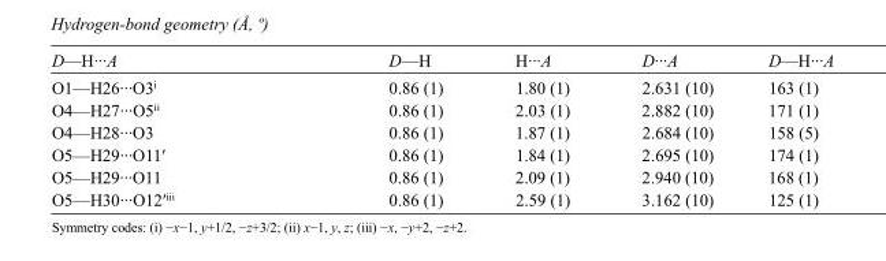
<table><tbody><tr><td>D—H···A</td><td>D—H</td><td>H···A</td><td>D···A</td><td>D—H···A</td></tr><tr><td>O1—H26···O3<sup>i</sup></td><td>0.86 (1)</td><td>1.80 (1)</td><td>2.631 (10)</td><td>163 (1)</td></tr><tr><td>O4—H27···O5<sup>ii</sup></td><td>0.86 (1)</td><td>2.03 (1)</td><td>2.882 (10)</td><td>171 (1)</td></tr><tr><td>O4—H28···O3</td><td>0.86 (1)</td><td>1.87 (1)</td><td>2.684 (10)</td><td>158 (5)</td></tr><tr><td>O5—H29···O11′</td><td>0.86 (1)</td><td>1.84 (1)</td><td>2.695 (10)</td><td>174 (1)</td></tr><tr><td>O5—H29···O11</td><td>0.86 (1)</td><td>2.09 (1)</td><td>2.940 (10)</td><td>168 (1)</td></tr><tr><td>O5—H30···O12′<sup>iii</sup></td><td>0.86 (1)</td><td>2.59 (1)</td><td>3.162 (10)</td><td>125 (1)</td></tr></tbody></table>